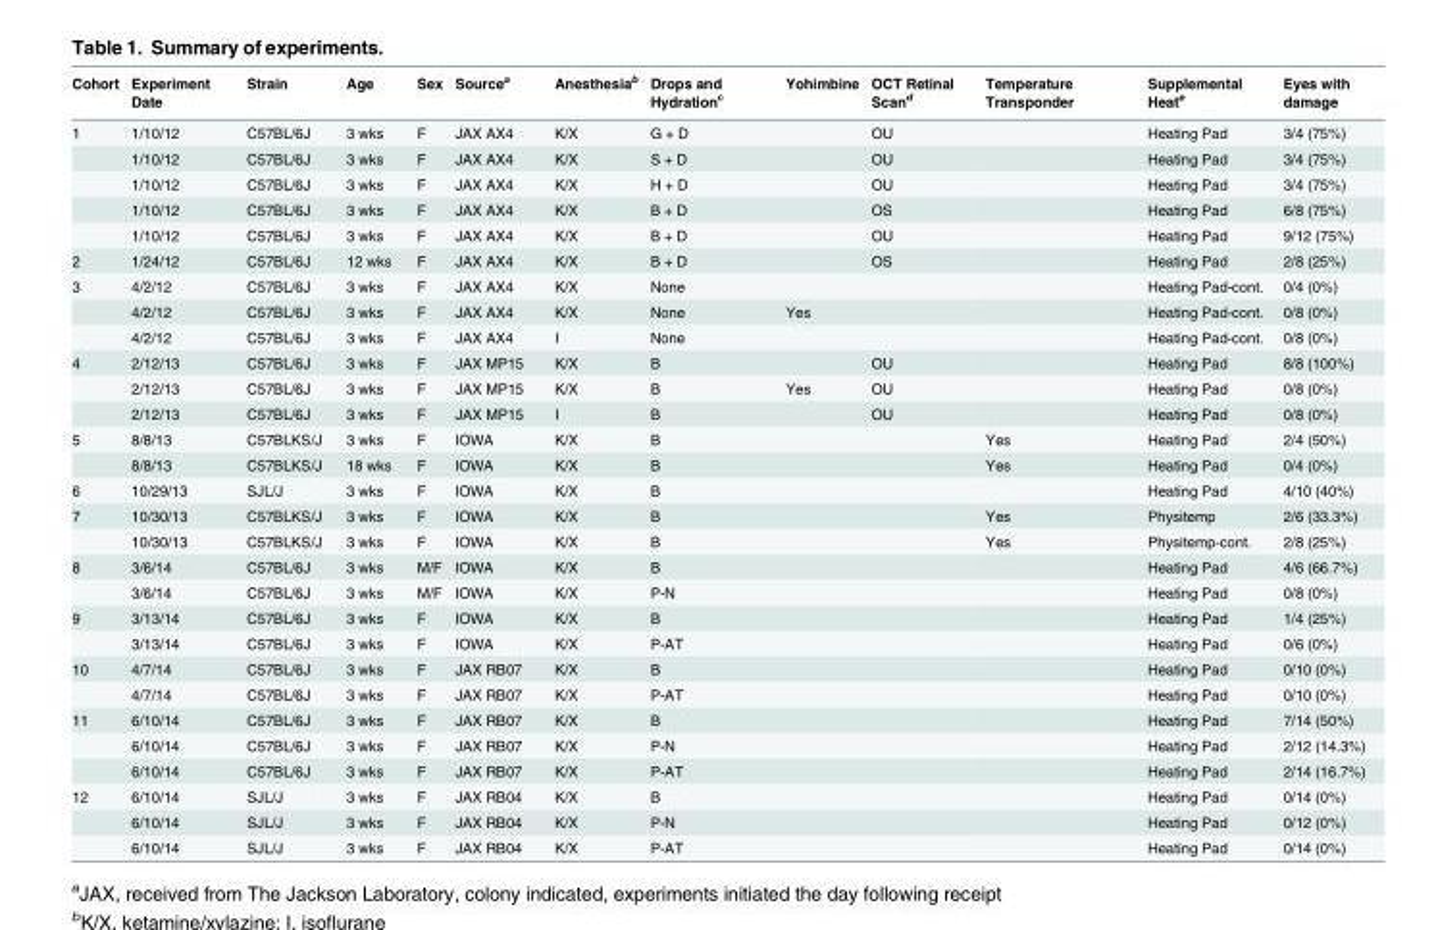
<table><thead><tr><td>Cohort</td><td>Experiment Date</td><td>Strain</td><td>Age</td><td>Sex</td><td>Source<sup>a</sup></td><td>Anesthesia<sup>b</sup></td><td>Drops and Hydration<sup>c</sup></td><td>Yohimbine</td><td>OCT Retinal Scan<sup>d</sup></td><td>Temperature Transponder</td><td>Supplemental Heat<sup>e</sup></td><td>Eyes with damage</td></tr></thead><tbody><tr><td rowspan="5">1</td><td>1/10/12</td><td>C57BL/6J</td><td>3 wks</td><td>F</td><td>JAX AX4</td><td>K/X</td><td>G + D</td><td></td><td>OU</td><td></td><td>Heating Pad</td><td>3/4 (75%)</td></tr><tr><td>1/10/12</td><td>C57BL/6J</td><td>3 wks</td><td>F</td><td>JAX AX4</td><td>K/X</td><td>S + D</td><td></td><td>OU</td><td></td><td>Heating Pad</td><td>3/4 (75%)</td></tr><tr><td>1/10/12</td><td>C57BL/6J</td><td>3 wks</td><td>F</td><td>JAX AX4</td><td>K/X</td><td>H + D</td><td></td><td>OU</td><td></td><td>Heating Pad</td><td>3/4 (75%)</td></tr><tr><td>1/10/12</td><td>C57BL/6J</td><td>3 wks</td><td>F</td><td>JAX AX4</td><td>K/X</td><td>B + D</td><td></td><td>OS</td><td></td><td>Heating Pad</td><td>6/8 (75%)</td></tr><tr><td>1/10/12</td><td>C57BL/6J</td><td>3 wks</td><td>F</td><td>JAX AX4</td><td>K/X</td><td>B + D</td><td></td><td>OU</td><td></td><td>Heating Pad</td><td>9/12 (75%)</td></tr><tr><td>2</td><td>1/24/12</td><td>C57BL/6J</td><td>12 wks</td><td>F</td><td>JAX AX4</td><td>K/X</td><td>B + D</td><td></td><td>OS</td><td></td><td>Heating Pad</td><td>2/8 (25%)</td></tr><tr><td rowspan="3">3</td><td>4/2/12</td><td>C57BL/6J</td><td>3 wks</td><td>F</td><td>JAX AX4</td><td>K/X</td><td>None</td><td></td><td></td><td></td><td>Heating Pad-cont.</td><td>0/4 (0%)</td></tr><tr><td>4/2/12</td><td>C57BL/6J</td><td>3 wks</td><td>F</td><td>JAX AX4</td><td>K/X</td><td>None</td><td>Yes</td><td></td><td></td><td>Heating Pad-cont.</td><td>0/8 (0%)</td></tr><tr><td>4/2/12</td><td>C57BL/6J</td><td>3 wks</td><td>F</td><td>JAX AX4</td><td>I</td><td>None</td><td></td><td></td><td></td><td>Heating Pad-cont.</td><td>0/8 (0%)</td></tr><tr><td rowspan="3">4</td><td>2/12/13</td><td>C57BL/6J</td><td>3 wks</td><td>F</td><td>JAX MP15</td><td>K/X</td><td>B</td><td></td><td>OU</td><td></td><td>Heating Pad</td><td>8/8 (100%)</td></tr><tr><td>2/12/13</td><td>C57BL/6J</td><td>3 wks</td><td>F</td><td>JAX MP15</td><td>K/X</td><td>B</td><td>Yes</td><td>OU</td><td></td><td>Heating Pad</td><td>0/8 (0%)</td></tr><tr><td>2/12/13</td><td>C57BL/6J</td><td>3 wks</td><td>F</td><td>JAX MP15</td><td>I</td><td>B</td><td></td><td>OU</td><td></td><td>Heating Pad</td><td>0/8 (0%)</td></tr><tr><td rowspan="2">5</td><td>8/8/13</td><td>C57BLKS/J</td><td>3 wks</td><td>F</td><td>IOWA</td><td>K/X</td><td>B</td><td></td><td></td><td>Yes</td><td>Heating Pad</td><td>2/4 (50%)</td></tr><tr><td>8/8/13</td><td>C57BLKS/J</td><td>18 wks</td><td>F</td><td>IOWA</td><td>K/X</td><td>B</td><td></td><td></td><td>Yes</td><td>Heating Pad</td><td>0/4 (0%)</td></tr><tr><td>6</td><td>10/29/13</td><td>SJL/J</td><td>3 wks</td><td>F</td><td>IOWA</td><td>K/X</td><td>B</td><td></td><td></td><td></td><td>Heating Pad</td><td>4/10 (40%)</td></tr><tr><td rowspan="2">7</td><td>10/30/13</td><td>C57BLKS/J</td><td>3 wks</td><td>F</td><td>IOWA</td><td>K/X</td><td>B</td><td></td><td></td><td>Yes</td><td>Physitemp</td><td>2/6 (33.3%)</td></tr><tr><td>10/30/13</td><td>C57BLKS/J</td><td>3 wks</td><td>F</td><td>IOWA</td><td>K/X</td><td>B</td><td></td><td></td><td>Yes</td><td>Physitemp-cont.</td><td>2/8 (25%)</td></tr><tr><td rowspan="2">8</td><td>3/6/14</td><td>C57BL/6J</td><td>3 wks</td><td>M/F</td><td>IOWA</td><td>K/X</td><td>B</td><td></td><td></td><td></td><td>Heating Pad</td><td>4/6 (66.7%)</td></tr><tr><td>3/6/14</td><td>C57BL/6J</td><td>3 wks</td><td>M/F</td><td>IOWA</td><td>K/X</td><td>P-N</td><td></td><td></td><td></td><td>Heating Pad</td><td>0/8 (0%)</td></tr><tr><td rowspan="2">9</td><td>3/13/14</td><td>C57BL/6J</td><td>3 wks</td><td>F</td><td>IOWA</td><td>K/X</td><td>B</td><td></td><td></td><td></td><td>Heating Pad</td><td>1/4 (25%)</td></tr><tr><td>3/13/14</td><td>C57BL/6J</td><td>3 wks</td><td>F</td><td>IOWA</td><td>K/X</td><td>P-AT</td><td></td><td></td><td></td><td>Heating Pad</td><td>0/6 (0%)</td></tr><tr><td rowspan="2">10</td><td>4/7/14</td><td>C57BL/6J</td><td>3 wks</td><td>F</td><td>JAX RB07</td><td>K/X</td><td>B</td><td></td><td></td><td></td><td>Heating Pad</td><td>0/10 (0%)</td></tr><tr><td>4/7/14</td><td>C57BL/6J</td><td>3 wks</td><td>F</td><td>JAX RB07</td><td>K/X</td><td>P-AT</td><td></td><td></td><td></td><td>Heating Pad</td><td>0/10 (0%)</td></tr><tr><td rowspan="3">11</td><td>6/10/14</td><td>C57BL/6J</td><td>3 wks</td><td>F</td><td>JAX RB07</td><td>K/X</td><td>B</td><td></td><td></td><td></td><td>Heating Pad</td><td>7/14 (50%)</td></tr><tr><td>6/10/14</td><td>C57BL/6J</td><td>3 wks</td><td>F</td><td>JAX RB07</td><td>K/X</td><td>P-N</td><td></td><td></td><td></td><td>Heating Pad</td><td>2/12 (14.3%)</td></tr><tr><td>6/10/14</td><td>C57BL/6J</td><td>3 wks</td><td>F</td><td>JAX RB07</td><td>K/X</td><td>P-AT</td><td></td><td></td><td></td><td>Heating Pad</td><td>2/14 (16.7%)</td></tr><tr><td rowspan="3">12</td><td>6/10/14</td><td>SJL/J</td><td>3 wks</td><td>F</td><td>JAX RB04</td><td>K/X</td><td>B</td><td></td><td></td><td></td><td>Heating Pad</td><td>0/14 (0%)</td></tr><tr><td>6/10/14</td><td>SJL/J</td><td>3 wks</td><td>F</td><td>JAX RB04</td><td>K/X</td><td>P-N</td><td></td><td></td><td></td><td>Heating Pad</td><td>0/12 (0%)</td></tr><tr><td>6/10/14</td><td>SJL/J</td><td>3 wks</td><td>F</td><td>JAX RB04</td><td>K/X</td><td>P-AT</td><td></td><td></td><td></td><td>Heating Pad</td><td>0/14 (0%)</td></tr></tbody></table>